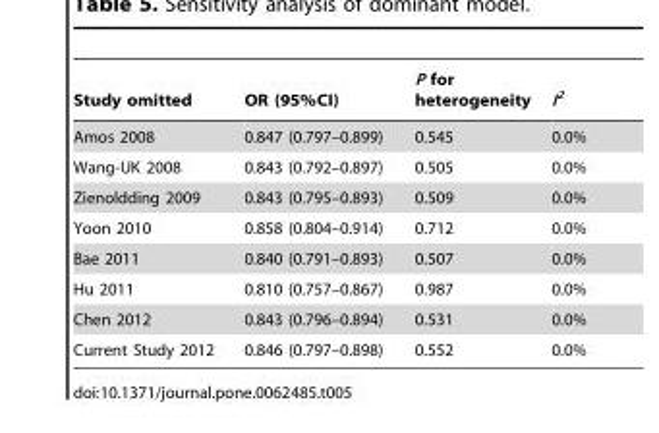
<table><thead><tr><td>Study omitted</td><td>OR (95%CI)</td><td>P for heterogeneity</td><td>I<sup>2</sup></td></tr></thead><tbody><tr><td>Amos 2008</td><td>0.847 (0.797–0.899)</td><td>0.545</td><td>0.0%</td></tr><tr><td>Wang-UK 2008</td><td>0.843 (0.792–0.897)</td><td>0.505</td><td>0.0%</td></tr><tr><td>Zienoldding 2009</td><td>0.843 (0.795–0.893)</td><td>0.509</td><td>0.0%</td></tr><tr><td>Yoon 2010</td><td>0.858 (0.804–0.914)</td><td>0.712</td><td>0.0%</td></tr><tr><td>Bae 2011</td><td>0.840 (0.791–0.893)</td><td>0.507</td><td>0.0%</td></tr><tr><td>Hu 2011</td><td>0.810 (0.757–0.867)</td><td>0.987</td><td>0.0%</td></tr><tr><td>Chen 2012</td><td>0.843 (0.796–0.894)</td><td>0.531</td><td>0.0%</td></tr><tr><td>Current Study 2012</td><td>0.846 (0.797–0.898)</td><td>0.552</td><td>0.0%</td></tr></tbody></table>